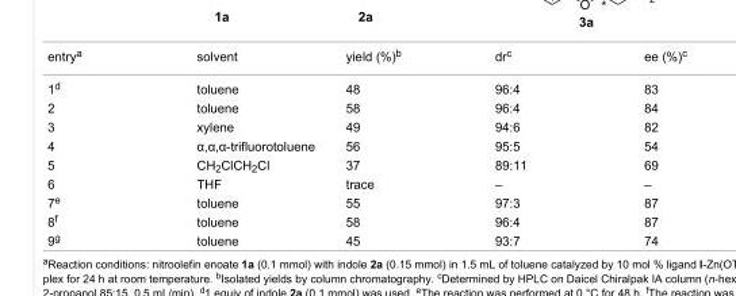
<table><tbody><tr><td>entry<sup>a</sup></td><td>solvent</td><td>yield (%)<sup>b</sup></td><td>dr<sup>c</sup></td><td>ee (%)<sup>c</sup></td></tr><tr><td>1<sup>d</sup></td><td>toluene</td><td>48</td><td>96:4</td><td>83</td></tr><tr><td>2</td><td>toluene</td><td>58</td><td>96:4</td><td>84</td></tr><tr><td>3</td><td>xylene</td><td>49</td><td>94:6</td><td>82</td></tr><tr><td>4</td><td>α,α,α-trifluorotoluene</td><td>56</td><td>95:5</td><td>54</td></tr><tr><td>5</td><td>CH<sub>2</sub>ClCH<sub>2</sub>Cl</td><td>37</td><td>89:11</td><td>69</td></tr><tr><td>6</td><td>THF</td><td>trace</td><td>–</td><td>–</td></tr><tr><td>7<sup>e</sup></td><td>toluene</td><td>55</td><td>97:3</td><td>87</td></tr><tr><td>8<sup>f</sup></td><td>toluene</td><td>58</td><td>96:4</td><td>87</td></tr><tr><td>9<sup>g</sup></td><td>toluene</td><td>45</td><td>93:7</td><td>74</td></tr></tbody></table>